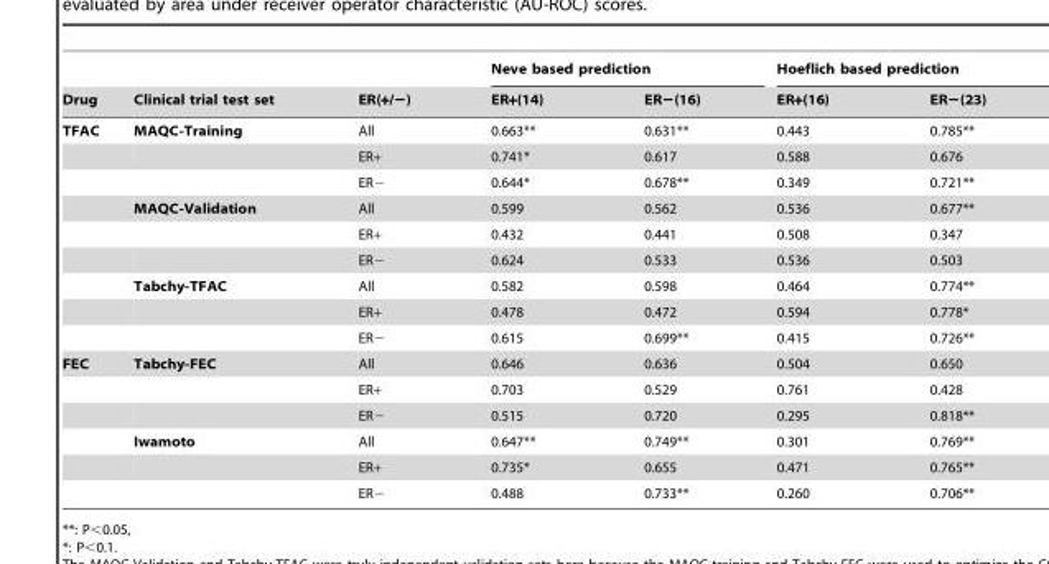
<table><thead><tr><td rowspan="2">Drug</td><td rowspan="2">Clinical trial test set</td><td rowspan="2">ER(+/−)</td><td colspan="2">Neve based prediction</td><td colspan="2">Hoeflich based prediction</td></tr><tr><td>ER+(14)</td><td>ER−(16)</td><td>ER+(16)</td><td>ER−(23)</td></tr></thead><tbody><tr><td rowspan="9">TFAC</td><td>MAQC-Training</td><td>All</td><td>0.663**</td><td>0.631**</td><td>0.443</td><td>0.785**</td></tr><tr><td></td><td>ER+</td><td>0.741*</td><td>0.617</td><td>0.588</td><td>0.676</td></tr><tr><td></td><td>ER−</td><td>0.644*</td><td>0.678**</td><td>0.349</td><td>0.721**</td></tr><tr><td>MAQC-Validation</td><td>All</td><td>0.599</td><td>0.562</td><td>0.536</td><td>0.677**</td></tr><tr><td></td><td>ER+</td><td>0.432</td><td>0.441</td><td>0.508</td><td>0.347</td></tr><tr><td></td><td>ER−</td><td>0.624</td><td>0.533</td><td>0.536</td><td>0.503</td></tr><tr><td>Tabchy-TFAC</td><td>All</td><td>0.582</td><td>0.598</td><td>0.464</td><td>0.774**</td></tr><tr><td></td><td>ER+</td><td>0.478</td><td>0.472</td><td>0.594</td><td>0.778*</td></tr><tr><td></td><td>ER−</td><td>0.615</td><td>0.699**</td><td>0.415</td><td>0.726**</td></tr><tr><td rowspan="6">FEC</td><td>Tabchy-FEC</td><td>All</td><td>0.646</td><td>0.636</td><td>0.504</td><td>0.650</td></tr><tr><td></td><td>ER+</td><td>0.703</td><td>0.529</td><td>0.761</td><td>0.428</td></tr><tr><td></td><td>ER−</td><td>0.515</td><td>0.720</td><td>0.295</td><td>0.818**</td></tr><tr><td>Iwamoto</td><td>All</td><td>0.647**</td><td>0.749**</td><td>0.301</td><td>0.769**</td></tr><tr><td></td><td>ER+</td><td>0.735*</td><td>0.655</td><td>0.471</td><td>0.765**</td></tr><tr><td></td><td>ER−</td><td>0.488</td><td>0.733**</td><td>0.260</td><td>0.706**</td></tr></tbody></table>